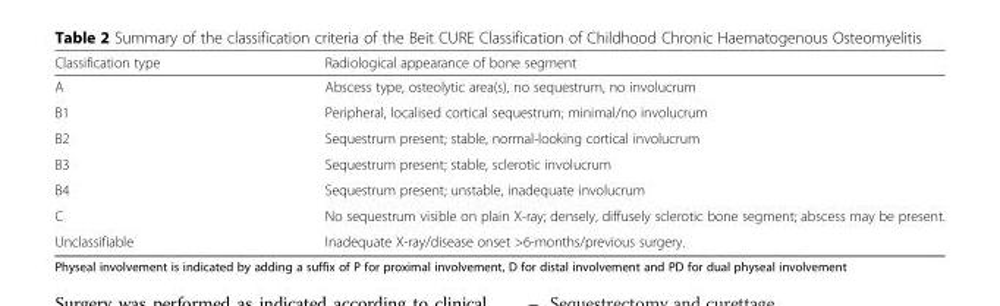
<table><thead><tr><td>Classification type</td><td>Radiological appearance of bone segment</td></tr></thead><tbody><tr><td>A</td><td>Abscess type, osteolytic area(s), no sequestrum, no involucrum</td></tr><tr><td>B1</td><td>Peripheral, localised cortical sequestrum; minimal/no involucrum</td></tr><tr><td>B2</td><td>Sequestrum present; stable, normal-looking cortical involucrum</td></tr><tr><td>B3</td><td>Sequestrum present; stable, sclerotic involucrum</td></tr><tr><td>B4</td><td>Sequestrum present; unstable, inadequate involucrum</td></tr><tr><td>C</td><td>No sequestrum visible on plain X-ray; densely, diffusely sclerotic bone segment; abscess may be present.</td></tr><tr><td>Unclassifiable</td><td>Inadequate X-ray/disease onset &gt;6-months/previous surgery.</td></tr></tbody></table>